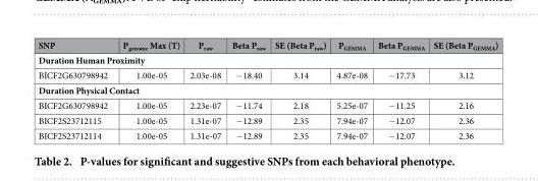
<table><thead><tr><td>SNP</td><td>P<sub>genome</sub> Max (T)</td><td>P<sub>raw</sub></td><td>Beta P<sub>raw</sub></td><td>SE (Beta P<sub>raw</sub>)</td><td>P<sub>GEMMA</sub></td><td>Beta P<sub>GEMMA</sub></td><td>SE (Beta P<sub>GEMMA</sub>)</td></tr></thead><tbody><tr><td colspan="8">Duration Human Proximity</td></tr><tr><td>BICF2G630798942</td><td>1.00e-05</td><td>2.03e-08</td><td>− 18.40</td><td>3.14</td><td>4.87e-08</td><td>− 17.73</td><td>3.12</td></tr><tr><td colspan="8">Duration Physical Contact</td></tr><tr><td>BICF2G630798942</td><td>1.00e-05</td><td>2.23e-07</td><td>− 11.74</td><td>2.18</td><td>5.25e-07</td><td>− 11.25</td><td>2.16</td></tr><tr><td>BICF2S23712115</td><td>1.00e-05</td><td>1.31e-07</td><td>− 12.89</td><td>2.35</td><td>7.94e-07</td><td>− 12.07</td><td>2.36</td></tr><tr><td>BICF2S23712114</td><td>1.00e-05</td><td>1.31e-07</td><td>− 12.89</td><td>2.35</td><td>7.94e-07</td><td>− 12.07</td><td>2.36</td></tr></tbody></table>